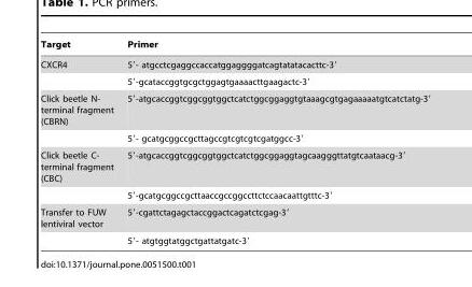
<table><thead><tr><td>Target</td><td>Primer</td></tr></thead><tbody><tr><td rowspan="2">CXCR4</td><td>5′- atgcctcgaggccaccatggaggggatcagtatatacacttc-3′</td></tr><tr><td>5′-gcataccggtgcgctggagtgaaaacttgaagactc-3′</td></tr><tr><td rowspan="2">Click beetle N- terminal fragment (CBRN)</td><td>5′-atgcaccggtcggcggtggctcatctggcggaggtgtaaagcgtgagaaaaatgtcatctatg-3′</td></tr><tr><td>5′- gcatgcggccgcttagccgtcgtcgtcgatggcc-3′</td></tr><tr><td rowspan="2">Click beetle C- terminal fragment (CBC)</td><td>5′-atgcaccggtcggcggtggctcatctggcggaggtagcaagggttatgtcaataacg-3′</td></tr><tr><td>5′-gcatgcggccgcttaaccgccggccttctccaacaattgtttc-3′</td></tr><tr><td rowspan="2">Transfer to FUW lentiviral vector</td><td>5′-cgattctagagctaccggactcagatctcgag-3′</td></tr><tr><td>5′- atgtggtatggctgattatgatc-3′</td></tr></tbody></table>